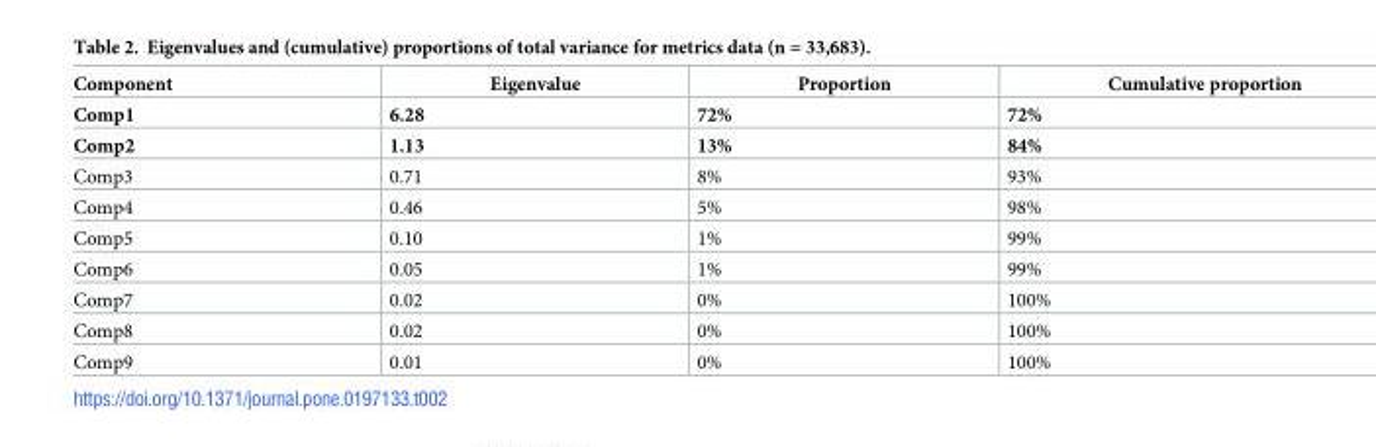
<table><thead><tr><td>Component</td><td>Eigenvalue</td><td>Proportion</td><td>Cumulative proportion</td></tr></thead><tbody><tr><td>Comp1</td><td>6.28</td><td>72%</td><td>72%</td></tr><tr><td>Comp2</td><td>1.13</td><td>13%</td><td>84%</td></tr><tr><td>Comp3</td><td>0.71</td><td>8%</td><td>93%</td></tr><tr><td>Comp4</td><td>0.46</td><td>5%</td><td>98%</td></tr><tr><td>Comp5</td><td>0.10</td><td>1%</td><td>99%</td></tr><tr><td>Comp6</td><td>0.05</td><td>1%</td><td>99%</td></tr><tr><td>Comp7</td><td>0.02</td><td>0%</td><td>100%</td></tr><tr><td>Comp8</td><td>0.02</td><td>0%</td><td>100%</td></tr><tr><td>Comp9</td><td>0.01</td><td>0%</td><td>100%</td></tr></tbody></table>